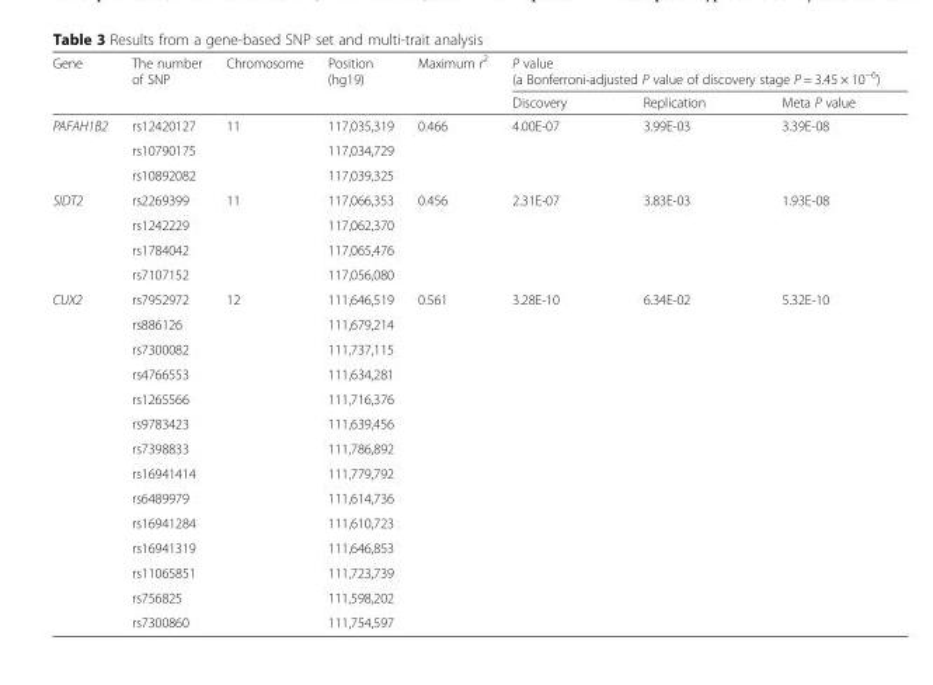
<table><thead><tr><td rowspan="2">Gene</td><td rowspan="2">The number of SNP</td><td rowspan="2">Chromosome</td><td rowspan="2">Position (hg19)</td><td rowspan="2">Maximum r<sup>2</sup></td><td colspan="3">P value (a Bonferroni-adjusted P value of discovery stage P = 3.45 × 10<sup>−6</sup>)</td></tr><tr><td>Discovery</td><td>Replication</td><td>Meta P value</td></tr></thead><tbody><tr><td rowspan="3">PAFAH1B2</td><td>rs12420127</td><td rowspan="3">11</td><td>117,035,319</td><td rowspan="3">0.466</td><td rowspan="3">4.00E-07</td><td rowspan="3">3.99E-03</td><td rowspan="3">3.39E-08</td></tr><tr><td>rs10790175</td><td>117,034,729</td></tr><tr><td>rs10892082</td><td>117,039,325</td></tr><tr><td rowspan="4">SIDT2</td><td>rs2269399</td><td rowspan="4">11</td><td>117,066,353</td><td rowspan="4">0.456</td><td rowspan="4">2.31E-07</td><td rowspan="4">3.83E-03</td><td rowspan="4">1.93E-08</td></tr><tr><td>rs1242229</td><td>117,062,370</td></tr><tr><td>rs1784042</td><td>117,065,476</td></tr><tr><td>rs7107152</td><td>117,056,080</td></tr><tr><td rowspan="14">CUX2</td><td>rs7952972</td><td rowspan="14">12</td><td>111,646,519</td><td rowspan="14">0.561</td><td rowspan="14">3.28E-10</td><td rowspan="14">6.34E-02</td><td rowspan="14">5.32E-10</td></tr><tr><td>rs886126</td><td>111,679,214</td></tr><tr><td>rs7300082</td><td>111,737,115</td></tr><tr><td>rs4766553</td><td>111,634,281</td></tr><tr><td>rs1265566</td><td>111,716,376</td></tr><tr><td>rs9783423</td><td>111,639,456</td></tr><tr><td>rs7398833</td><td>111,786,892</td></tr><tr><td>rs16941414</td><td>111,779,792</td></tr><tr><td>rs6489979</td><td>111,614,736</td></tr><tr><td>rs16941284</td><td>111,610,723</td></tr><tr><td>rs16941319</td><td>111,646,853</td></tr><tr><td>rs11065851</td><td>111,723,739</td></tr><tr><td>rs756825</td><td>111,598,202</td></tr><tr><td>rs7300860</td><td>111,754,597</td></tr></tbody></table>